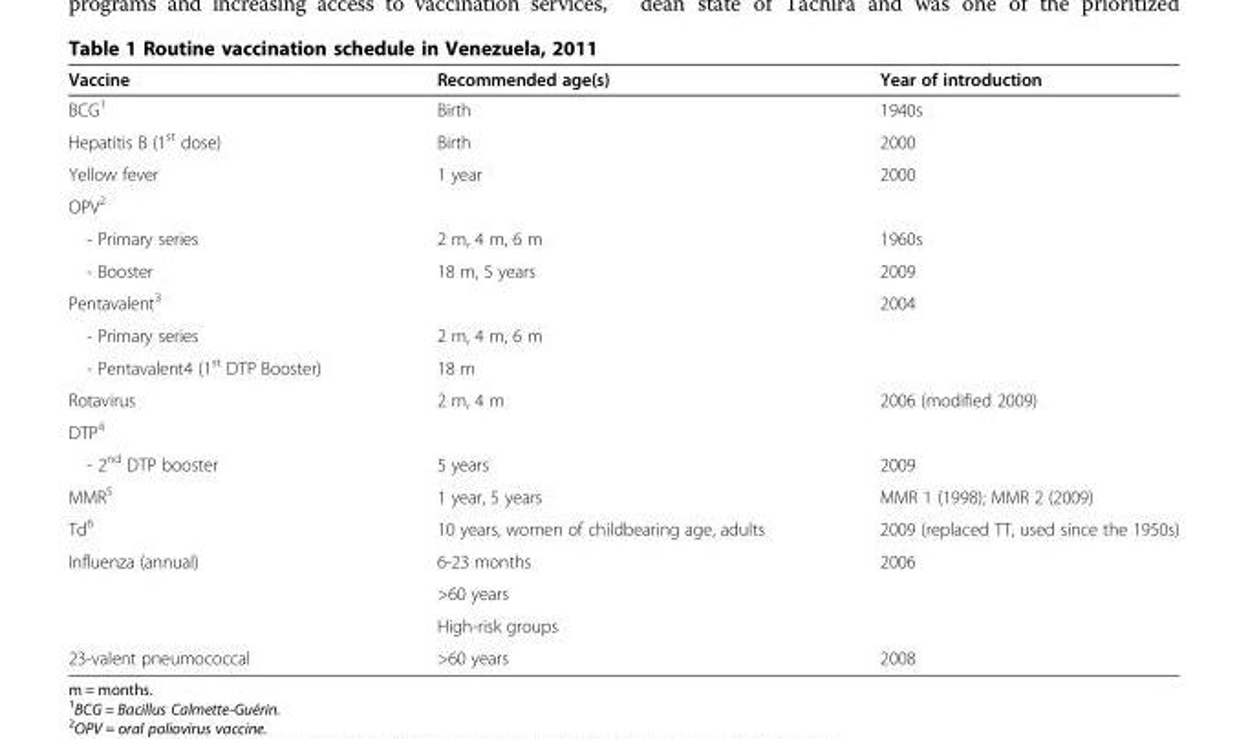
<table><thead><tr><td>Vaccine</td><td>Recommended age(s)</td><td>Year of introduction</td></tr></thead><tbody><tr><td>BCG<sup>1</sup></td><td>Birth</td><td>1940s</td></tr><tr><td>Hepatitis B (1<sup>st</sup> dose)</td><td>Birth</td><td>2000</td></tr><tr><td>Yellow fever</td><td>1 year</td><td>2000</td></tr><tr><td colspan="3">OPV<sup>2</sup></td></tr><tr><td>- Primary series</td><td>2 m, 4 m, 6 m</td><td>1960s</td></tr><tr><td>- Booster</td><td>18 m, 5 years</td><td>2009</td></tr><tr><td>Pentavalent<sup>3</sup></td><td></td><td>2004</td></tr><tr><td>- Primary series</td><td>2 m, 4 m, 6 m</td><td></td></tr><tr><td>- Pentavalent4 (1<sup>st</sup> DTP Booster)</td><td>18 m</td><td></td></tr><tr><td>Rotavirus</td><td>2 m, 4 m</td><td>2006 (modified 2009)</td></tr><tr><td colspan="3">DTP<sup>4</sup></td></tr><tr><td>- 2<sup>nd</sup> DTP booster</td><td>5 years</td><td>2009</td></tr><tr><td>MMR<sup>5</sup></td><td>1 year, 5 years</td><td>MMR 1 (1998); MMR 2 (2009)</td></tr><tr><td>Td<sup>6</sup></td><td>10 years, women of childbearing age, adults</td><td>2009 (replaced TT, used since the 1950s)</td></tr><tr><td rowspan="3">Influenza (annual)</td><td>6-23 months</td><td rowspan="3">2006</td></tr><tr><td>&gt;60 years</td></tr><tr><td>High-risk groups</td></tr><tr><td>23-valent pneumococcal</td><td>&gt;60 years</td><td>2008</td></tr></tbody></table>